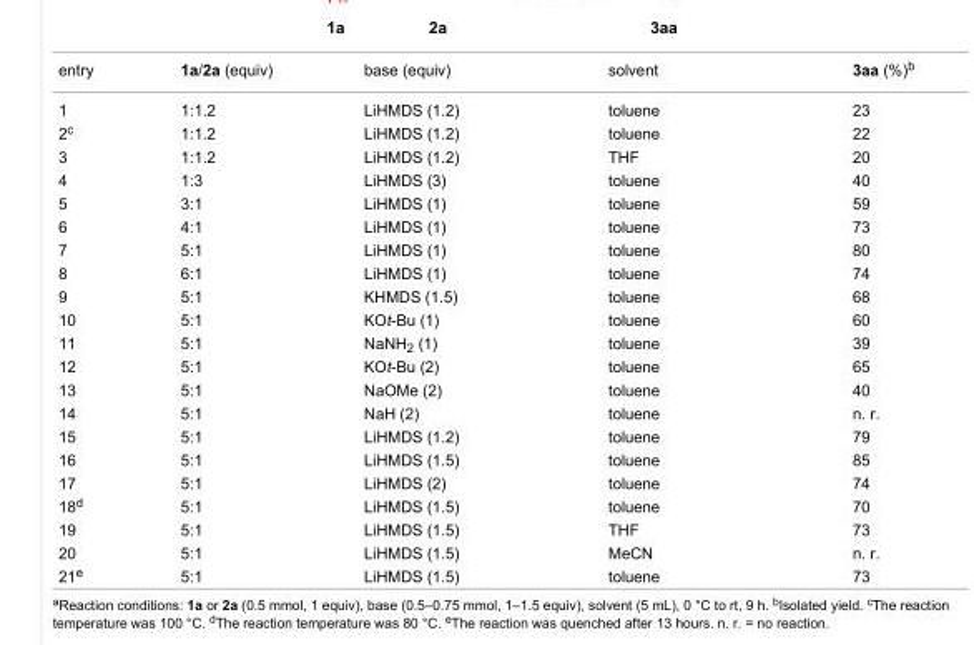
<table><tbody><tr><td>entry</td><td>1a/2a (equiv)</td><td>base (equiv)</td><td>solvent</td><td>3aa (%)<sup>b</sup></td></tr><tr><td>1</td><td>1:1.2</td><td>LiHMDS (1.2)</td><td>toluene</td><td>23</td></tr><tr><td>2<sup>c</sup></td><td>1:1.2</td><td>LiHMDS (1.2)</td><td>toluene</td><td>22</td></tr><tr><td>3</td><td>1:1.2</td><td>LiHMDS (1.2)</td><td>THF</td><td>20</td></tr><tr><td>4</td><td>1:3</td><td>LiHMDS (3)</td><td>toluene</td><td>40</td></tr><tr><td>5</td><td>3:1</td><td>LiHMDS (1)</td><td>toluene</td><td>59</td></tr><tr><td>6</td><td>4:1</td><td>LiHMDS (1)</td><td>toluene</td><td>73</td></tr><tr><td>7</td><td>5:1</td><td>LiHMDS (1)</td><td>toluene</td><td>80</td></tr><tr><td>8</td><td>6:1</td><td>LiHMDS (1)</td><td>toluene</td><td>74</td></tr><tr><td>9</td><td>5:1</td><td>KHMDS (1.5)</td><td>toluene</td><td>68</td></tr><tr><td>10</td><td>5:1</td><td>KOt-Bu (1)</td><td>toluene</td><td>60</td></tr><tr><td>11</td><td>5:1</td><td>NaNH<sub>2</sub> (1)</td><td>toluene</td><td>39</td></tr><tr><td>12</td><td>5:1</td><td>KOt-Bu (2)</td><td>toluene</td><td>65</td></tr><tr><td>13</td><td>5:1</td><td>NaOMe (2)</td><td>toluene</td><td>40</td></tr><tr><td>14</td><td>5:1</td><td>NaH (2)</td><td>toluene</td><td>n. r.</td></tr><tr><td>15</td><td>5:1</td><td>LiHMDS (1.2)</td><td>toluene</td><td>79</td></tr><tr><td>16</td><td>5:1</td><td>LiHMDS (1.5)</td><td>toluene</td><td>85</td></tr><tr><td>17</td><td>5:1</td><td>LiHMDS (2)</td><td>toluene</td><td>74</td></tr><tr><td>18<sup>d</sup></td><td>5:1</td><td>LiHMDS (1.5)</td><td>toluene</td><td>70</td></tr><tr><td>19</td><td>5:1</td><td>LiHMDS (1.5)</td><td>THF</td><td>73</td></tr><tr><td>20</td><td>5:1</td><td>LiHMDS (1.5)</td><td>MeCN</td><td>n. r.</td></tr><tr><td>21<sup>e</sup></td><td>5:1</td><td>LiHMDS (1.5)</td><td>toluene</td><td>73</td></tr></tbody></table>